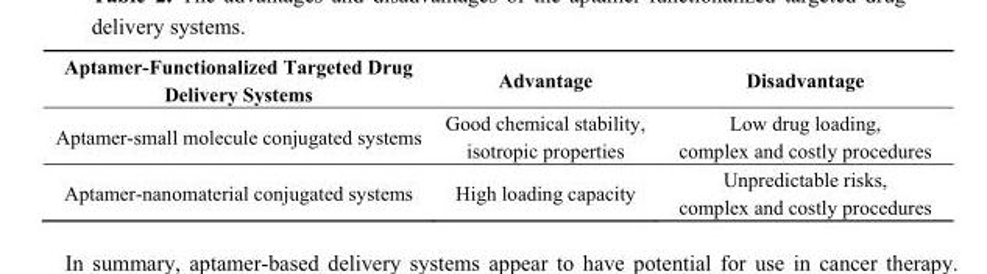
<table><thead><tr><td>Aptamer-Functionalized Targeted Drug Delivery Systems</td><td>Advantage</td><td>Disadvantage</td></tr></thead><tbody><tr><td>Aptamer-small molecule conjugated systems</td><td>Good chemical stability, isotropic properties</td><td>Low drug loading, complex and costly procedures</td></tr><tr><td>Aptamer-nanomaterial conjugated systems</td><td>High loading capacity</td><td>Unpredictable risks, complex and costly procedures</td></tr></tbody></table>